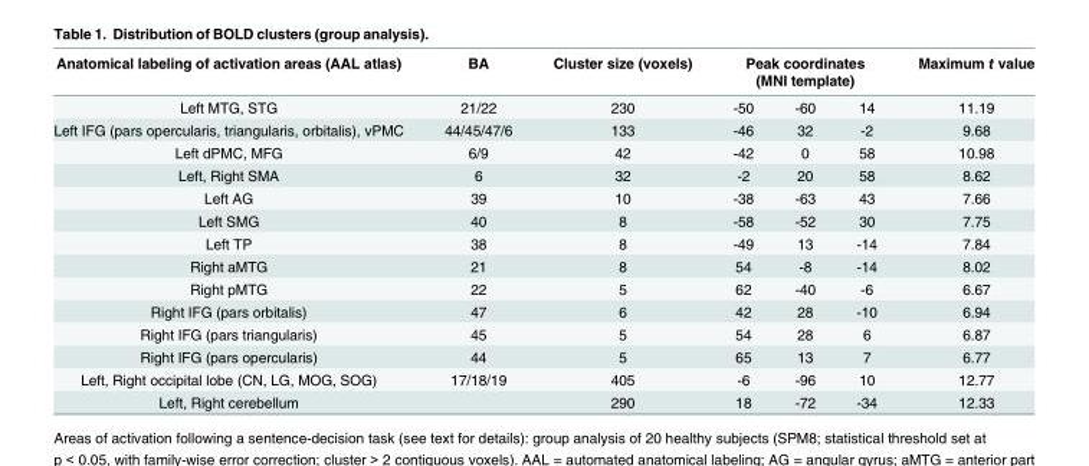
<table><thead><tr><td rowspan="2">Anatomical labeling of activation areas (AAL atlas) Left MTG, STG</td><td rowspan="2">BA 21/22</td><td rowspan="2">Cluster size (voxels) 230</td><td colspan="3">Peak coordinates (MNI template)</td><td rowspan="2">Maximum t value 11.19</td></tr><tr><td>-50</td><td>-60</td><td>14</td></tr></thead><tbody><tr><td>Left IFG (pars opercularis, triangularis, orbitalis), vPMC</td><td>44/45/47/6</td><td>133</td><td>-46</td><td>32</td><td>-2</td><td>9.68</td></tr><tr><td>Left dPMC, MFG</td><td>6/9</td><td>42</td><td>-42</td><td>0</td><td>58</td><td>10.98</td></tr><tr><td>Left, Right SMA</td><td>6</td><td>32</td><td>-2</td><td>20</td><td>58</td><td>8.62</td></tr><tr><td>Left AG</td><td>39</td><td>10</td><td>-38</td><td>-63</td><td>43</td><td>7.66</td></tr><tr><td>Left SMG</td><td>40</td><td>8</td><td>-58</td><td>-52</td><td>30</td><td>7.75</td></tr><tr><td>Left TP</td><td>38</td><td>8</td><td>-49</td><td>13</td><td>-14</td><td>7.84</td></tr><tr><td>Right aMTG</td><td>21</td><td>8</td><td>54</td><td>-8</td><td>-14</td><td>8.02</td></tr><tr><td>Right pMTG</td><td>22</td><td>5</td><td>62</td><td>-40</td><td>-6</td><td>6.67</td></tr><tr><td>Right IFG (pars orbitalis)</td><td>47</td><td>6</td><td>42</td><td>28</td><td>-10</td><td>6.94</td></tr><tr><td>Right IFG (pars triangularis)</td><td>45</td><td>5</td><td>54</td><td>28</td><td>6</td><td>6.87</td></tr><tr><td>Right IFG (pars opercularis)</td><td>44</td><td>5</td><td>65</td><td>13</td><td>7</td><td>6.77</td></tr><tr><td>Left, Right occipital lobe (CN, LG, MOG, SOG)</td><td>17/18/19</td><td>405</td><td>-6</td><td>-96</td><td>10</td><td>12.77</td></tr><tr><td>Left, Right cerebellum</td><td></td><td>290</td><td>18</td><td>-72</td><td>-34</td><td>12.33</td></tr></tbody></table>